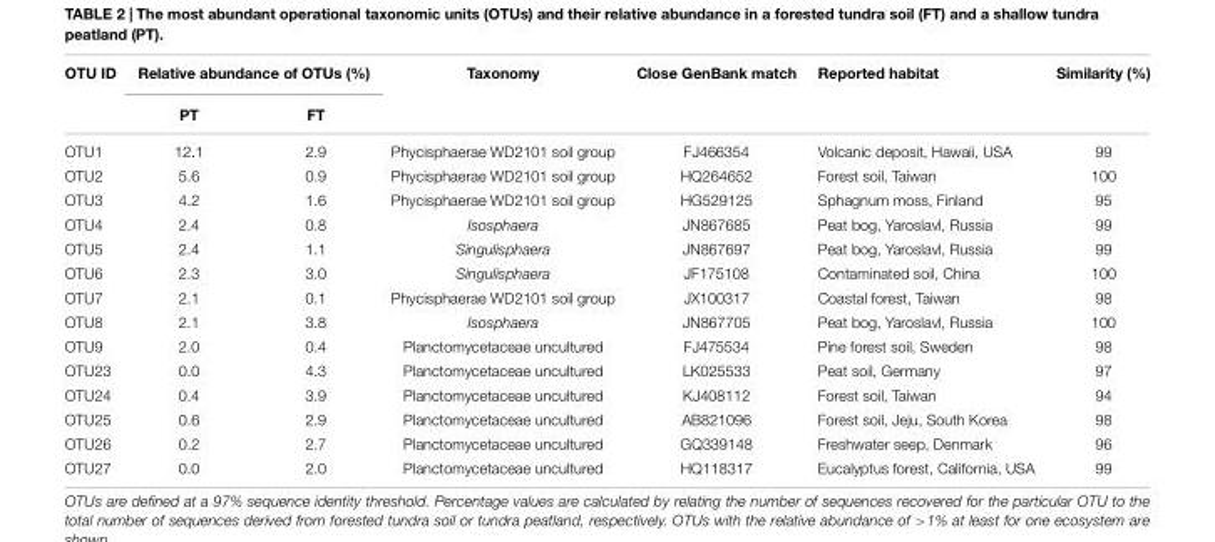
<table><thead><tr><td rowspan="2">OTU ID</td><td colspan="2">Relative abundance of OTUs (%)</td><td rowspan="2">Taxonomy</td><td rowspan="2">Close GenBank match</td><td rowspan="2">Reported habitat</td><td rowspan="2">Similarity (%)</td></tr><tr><td>PT</td><td>FT</td></tr></thead><tbody><tr><td>OTU1</td><td>12.1</td><td>2.9</td><td>Phycisphaerae WD2101 soil group</td><td>FJ466354</td><td>Volcanic deposit, Hawaii, USA</td><td>99</td></tr><tr><td>OTU2</td><td>5.6</td><td>0.9</td><td>Phycisphaerae WD2101 soil group</td><td>HQ264652</td><td>Forest soil, Taiwan</td><td>100</td></tr><tr><td>OTU3</td><td>4.2</td><td>1.6</td><td>Phycisphaerae WD2101 soil group</td><td>HG529125</td><td>Sphagnum moss, Finland</td><td>95</td></tr><tr><td>OTU4</td><td>2.4</td><td>0.8</td><td>Isosphaera</td><td>JN867685</td><td>Peat bog, Yaroslavl, Russia</td><td>99</td></tr><tr><td>OTU5</td><td>2.4</td><td>1.1</td><td>Singulisphaera</td><td>JN867697</td><td>Peat bog, Yaroslavl, Russia</td><td>99</td></tr><tr><td>OTU6</td><td>2.3</td><td>3.0</td><td>Singulisphaera</td><td>JF175108</td><td>Contaminated soil, China</td><td>100</td></tr><tr><td>OTU7</td><td>2.1</td><td>0.1</td><td>Phycisphaerae WD2101 soil group</td><td>JX100317</td><td>Coastal forest, Taiwan</td><td>98</td></tr><tr><td>OTU8</td><td>2.1</td><td>3.8</td><td>Isosphaera</td><td>JN867705</td><td>Peat bog, Yaroslavl, Russia</td><td>100</td></tr><tr><td>OTU9</td><td>2.0</td><td>0.4</td><td>Planctomycetaceae uncultured</td><td>FJ475534</td><td>Pine forest soil, Sweden</td><td>98</td></tr><tr><td>OTU23</td><td>0.0</td><td>4.3</td><td>Planctomycetaceae uncultured</td><td>LK025533</td><td>Peat soil, Germany</td><td>97</td></tr><tr><td>OTU24</td><td>0.4</td><td>3.9</td><td>Planctomycetaceae uncultured</td><td>KJ408112</td><td>Forest soil, Taiwan</td><td>94</td></tr><tr><td>OTU25</td><td>0.6</td><td>2.9</td><td>Planctomycetaceae uncultured</td><td>AB821096</td><td>Forest soil, Jeju, South Korea</td><td>98</td></tr><tr><td>OTU26</td><td>0.2</td><td>2.7</td><td>Planctomycetaceae uncultured</td><td>GQ339148</td><td>Freshwater seep, Denmark</td><td>96</td></tr><tr><td>OTU27</td><td>0.0</td><td>2.0</td><td>Planctomycetaceae uncultured</td><td>HQ118317</td><td>Eucalyptus forest, California, USA</td><td>99</td></tr></tbody></table>